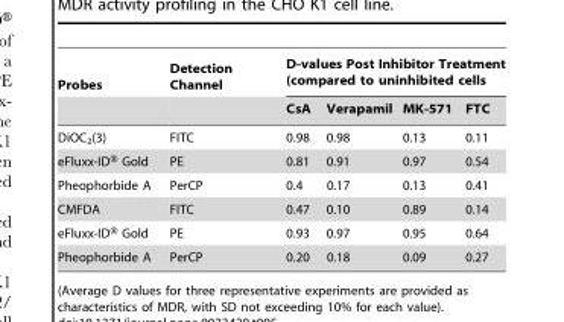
<table><thead><tr><td rowspan="2">Probes</td><td rowspan="2">Detection Channel</td><td colspan="4">D-values Post Inhibitor Treatment (compared to uninhibited cells</td></tr><tr><td>CsA</td><td>Verapamil</td><td>MK-571</td><td>FTC</td></tr></thead><tbody><tr><td>DiOC<sub>2</sub>(3)</td><td>FITC</td><td>0.98</td><td>0.98</td><td>0.13</td><td>0.11</td></tr><tr><td>eFluxx-ID® Gold</td><td>PE</td><td>0.81</td><td>0.91</td><td>0.97</td><td>0.54</td></tr><tr><td>Pheophorbide A</td><td>PerCP</td><td>0.4</td><td>0.17</td><td>0.13</td><td>0.41</td></tr><tr><td>CMFDA</td><td>FITC</td><td>0.47</td><td>0.10</td><td>0.89</td><td>0.14</td></tr><tr><td>eFluxx-ID® Gold</td><td>PE</td><td>0.93</td><td>0.97</td><td>0.95</td><td>0.64</td></tr><tr><td>Pheophorbide A</td><td>PerCP</td><td>0.20</td><td>0.18</td><td>0.09</td><td>0.27</td></tr></tbody></table>